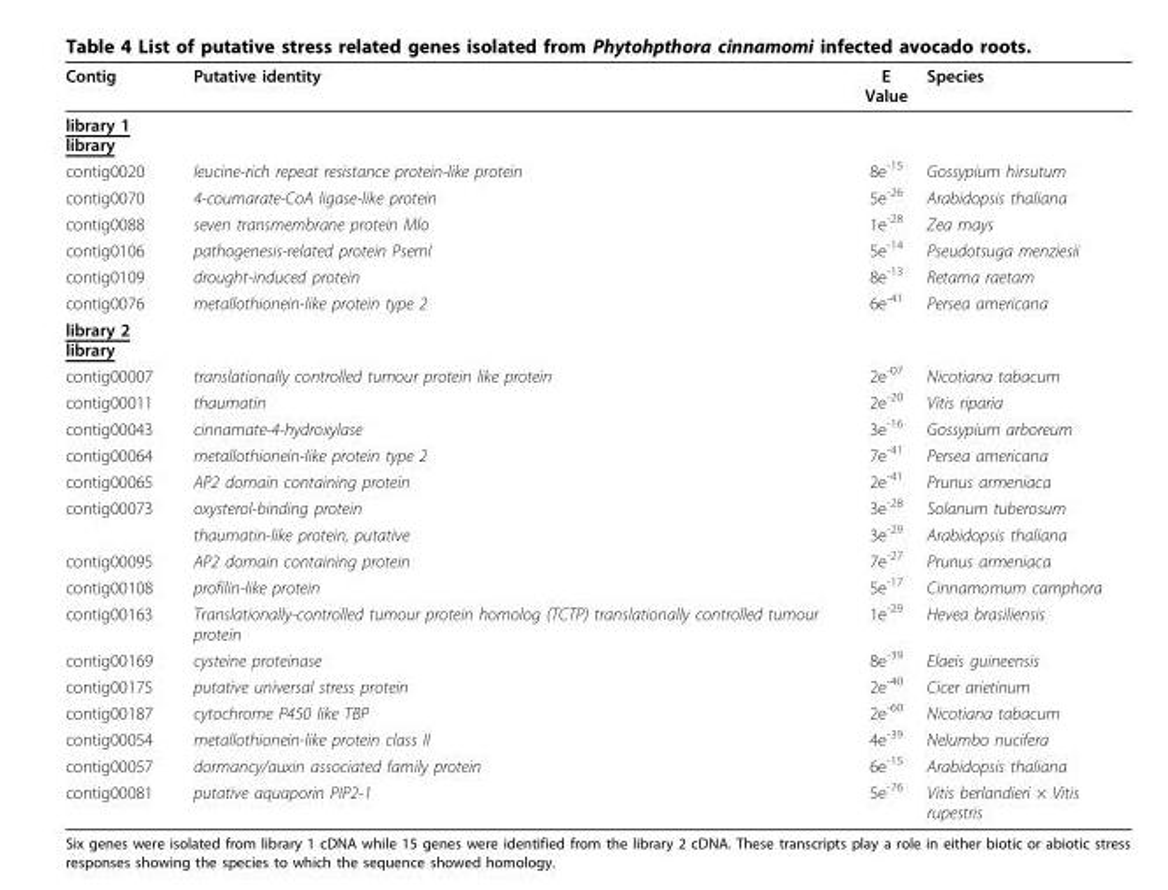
<table><thead><tr><td>Contig</td><td>Putative identity</td><td>E Value</td><td>Species</td></tr></thead><tbody><tr><td colspan="4">library 1 library</td></tr><tr><td>contig0020</td><td>leucine-rich repeat resistance protein-like protein</td><td>8e<sup>-15</sup></td><td>Gossypium hirsutum</td></tr><tr><td>contig0070</td><td>4-coumarate-CoA ligase-like protein</td><td>5e<sup>-26</sup></td><td>Arabidopsis thaliana</td></tr><tr><td>contig0088</td><td>seven transmembrane protein Mlo</td><td>1e<sup>-28</sup></td><td>Zea mays</td></tr><tr><td>contig0106</td><td>pathogenesis-related protein PsemI</td><td>5e<sup>-14</sup></td><td>Pseudotsuga menziesii</td></tr><tr><td>contig0109</td><td>drought-induced protein</td><td>8e<sup>-13</sup></td><td>Retama raetam</td></tr><tr><td>contig0076</td><td>metallothionein-like protein type 2</td><td>6e<sup>-41</sup></td><td>Persea americana</td></tr><tr><td colspan="4">library 2 library</td></tr><tr><td>contig00007</td><td>translationally controlled tumour protein like protein</td><td>2e<sup>-07</sup></td><td>Nicotiana tabacum</td></tr><tr><td>contig00011</td><td>thaumatin</td><td>2e<sup>-20</sup></td><td>Vitis riparia</td></tr><tr><td>contig00043</td><td>cinnamate-4-hydroxylase</td><td>3e<sup>-16</sup></td><td>Gossypium arboreum</td></tr><tr><td>contig00064</td><td>metallothionein-like protein type 2</td><td>7e<sup>-41</sup></td><td>Persea americana</td></tr><tr><td>contig00065</td><td>AP2 domain containing protein</td><td>2e<sup>-41</sup></td><td>Prunus armeniaca</td></tr><tr><td rowspan="2">contig00073</td><td>oxysterol-binding protein</td><td>3e<sup>-28</sup></td><td>Solanum tuberosum</td></tr><tr><td>thaumatin-like protein, putative</td><td>3e<sup>-29</sup></td><td>Arabidopsis thaliana</td></tr><tr><td>contig00095</td><td>AP2 domain containing protein</td><td>7e<sup>-27</sup></td><td>Prunus armeniaca</td></tr><tr><td>contig00108</td><td>profilin-like protein</td><td>5e<sup>-17</sup></td><td>Cinnamomum camphora</td></tr><tr><td>contig00163</td><td>Translationally-controlled tumour protein homolog (TCTP) translationally controlled tumour protein</td><td>1e<sup>-29</sup></td><td>Hevea brasiliensis</td></tr><tr><td>contig00169</td><td>cysteine proteinase</td><td>8e<sup>-39</sup></td><td>Elaeis guineensis</td></tr><tr><td>contig00175</td><td>putative universal stress protein</td><td>2e<sup>-40</sup></td><td>Cicer arietinum</td></tr><tr><td>contig00187</td><td>cytochrome P450 like TBP</td><td>2e<sup>-60</sup></td><td>Nicotiana tabacum</td></tr><tr><td>contig00054</td><td>metallothionein-like protein class II</td><td>4e<sup>-39</sup></td><td>Nelumbo nucifera</td></tr><tr><td>contig00057</td><td>dormancy/auxin associated family protein</td><td>6e<sup>-15</sup></td><td>Arabidopsis thaliana</td></tr><tr><td>contig00081</td><td>putative aquaporin PIP2-1</td><td>5e<sup>-76</sup></td><td>Vitis berlandieri × Vitis rupestris</td></tr></tbody></table>